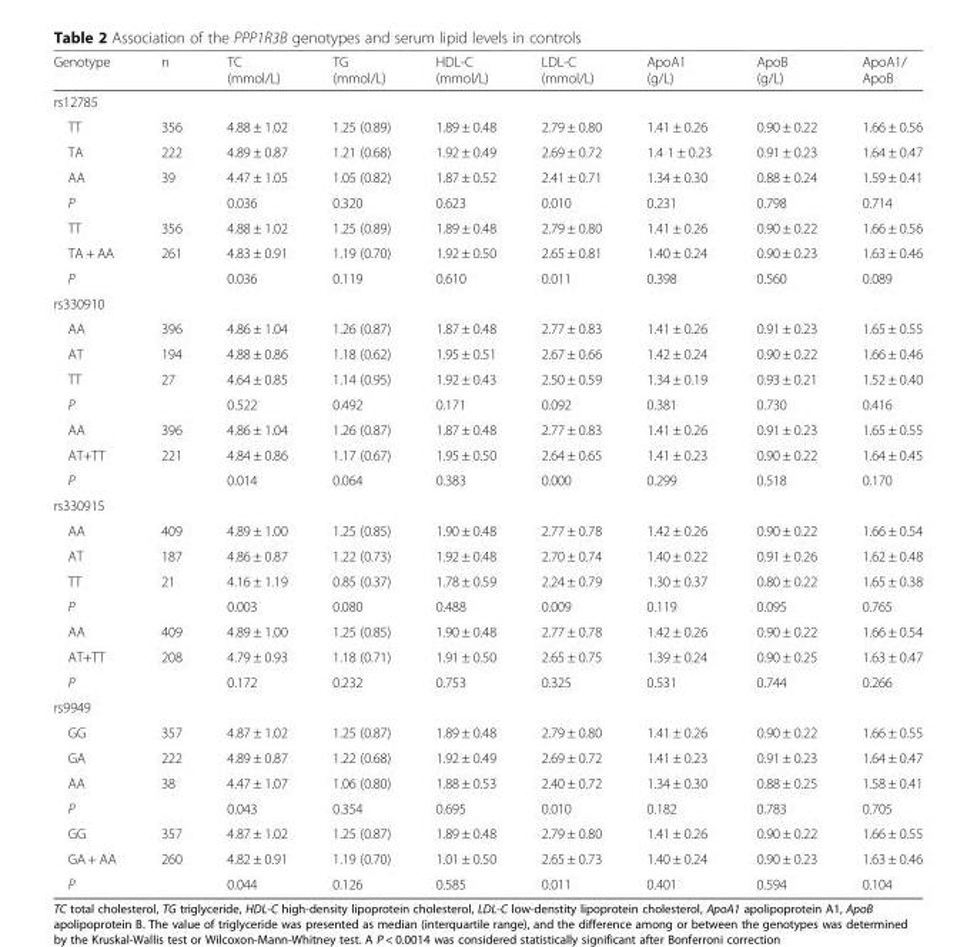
<table><thead><tr><td>Genotype</td><td>n</td><td>TC (mmol/L)</td><td>TG (mmol/L)</td><td>HDL-C (mmol/L)</td><td>LDL-C (mmol/L)</td><td>ApoA1 (g/L)</td><td>ApoB (g/L)</td><td>ApoA1/ ApoB</td></tr></thead><tbody><tr><td colspan="9">rs12785</td></tr><tr><td>TT</td><td>356</td><td>4.88 ± 1.02</td><td>1.25 (0.89)</td><td>1.89 ± 0.48</td><td>2.79 ± 0.80</td><td>1.41 ± 0.26</td><td>0.90 ± 0.22</td><td>1.66 ± 0.56</td></tr><tr><td>TA</td><td>222</td><td>4.89 ± 0.87</td><td>1.21 (0.68)</td><td>1.92 ± 0.49</td><td>2.69 ± 0.72</td><td>1.4 1 ± 0.23</td><td>0.91 ± 0.23</td><td>1.64 ± 0.47</td></tr><tr><td>AA</td><td>39</td><td>4.47 ± 1.05</td><td>1.05 (0.82)</td><td>1.87 ± 0.52</td><td>2.41 ± 0.71</td><td>1.34 ± 0.30</td><td>0.88 ± 0.24</td><td>1.59 ± 0.41</td></tr><tr><td>P</td><td></td><td>0.036</td><td>0.320</td><td>0.623</td><td>0.010</td><td>0.231</td><td>0.798</td><td>0.714</td></tr><tr><td>TT</td><td>356</td><td>4.88 ± 1.02</td><td>1.25 (0.89)</td><td>1.89 ± 0.48</td><td>2.79 ± 0.80</td><td>1.41 ± 0.26</td><td>0.90 ± 0.22</td><td>1.66 ± 0.56</td></tr><tr><td>TA + AA</td><td>261</td><td>4.83 ± 0.91</td><td>1.19 (0.70)</td><td>1.92 ± 0.50</td><td>2.65 ± 0.81</td><td>1.40 ± 0.24</td><td>0.90 ± 0.23</td><td>1.63 ± 0.46</td></tr><tr><td>P</td><td></td><td>0.036</td><td>0.119</td><td>0.610</td><td>0.011</td><td>0.398</td><td>0.560</td><td>0.089</td></tr><tr><td colspan="9">rs330910</td></tr><tr><td>AA</td><td>396</td><td>4.86 ± 1.04</td><td>1.26 (0.87)</td><td>1.87 ± 0.48</td><td>2.77 ± 0.83</td><td>1.41 ± 0.26</td><td>0.91 ± 0.23</td><td>1.65 ± 0.55</td></tr><tr><td>AT</td><td>194</td><td>4.88 ± 0.86</td><td>1.18 (0.62)</td><td>1.95 ± 0.51</td><td>2.67 ± 0.66</td><td>1.42 ± 0.24</td><td>0.90 ± 0.22</td><td>1.66 ± 0.46</td></tr><tr><td>TT</td><td>27</td><td>4.64 ± 0.85</td><td>1.14 (0.95)</td><td>1.92 ± 0.43</td><td>2.50 ± 0.59</td><td>1.34 ± 0.19</td><td>0.93 ± 0.21</td><td>1.52 ± 0.40</td></tr><tr><td>P</td><td></td><td>0.522</td><td>0.492</td><td>0.171</td><td>0.092</td><td>0.381</td><td>0.730</td><td>0.416</td></tr><tr><td>AA</td><td>396</td><td>4.86 ± 1.04</td><td>1.26 (0.87)</td><td>1.87 ± 0.48</td><td>2.77 ± 0.83</td><td>1.41 ± 0.26</td><td>0.91 ± 0.23</td><td>1.65 ± 0.55</td></tr><tr><td>AT+TT</td><td>221</td><td>4.84 ± 0.86</td><td>1.17 (0.67)</td><td>1.95 ± 0.50</td><td>2.64 ± 0.65</td><td>1.41 ± 0.23</td><td>0.90 ± 0.22</td><td>1.64 ± 0.45</td></tr><tr><td>P</td><td></td><td>0.014</td><td>0.064</td><td>0.383</td><td>0.000</td><td>0.299</td><td>0.518</td><td>0.170</td></tr><tr><td colspan="9">rs330915</td></tr><tr><td>AA</td><td>409</td><td>4.89 ± 1.00</td><td>1.25 (0.85)</td><td>1.90 ± 0.48</td><td>2.77 ± 0.78</td><td>1.42 ± 0.26</td><td>0.90 ± 0.22</td><td>1.66 ± 0.54</td></tr><tr><td>AT</td><td>187</td><td>4.86 ± 0.87</td><td>1.22 (0.73)</td><td>1.92 ± 0.48</td><td>2.70 ± 0.74</td><td>1.40 ± 0.22</td><td>0.91 ± 0.26</td><td>1.62 ± 0.48</td></tr><tr><td>TT</td><td>21</td><td>4.16 ± 1.19</td><td>0.85 (0.37)</td><td>1.78 ± 0.59</td><td>2.24 ± 0.79</td><td>1.30 ± 0.37</td><td>0.80 ± 0.22</td><td>1.65 ± 0.38</td></tr><tr><td>P</td><td></td><td>0.003</td><td>0.080</td><td>0.488</td><td>0.009</td><td>0.119</td><td>0.095</td><td>0.765</td></tr><tr><td>AA</td><td>409</td><td>4.89 ± 1.00</td><td>1.25 (0.85)</td><td>1.90 ± 0.48</td><td>2.77 ± 0.78</td><td>1.42 ± 0.26</td><td>0.90 ± 0.22</td><td>1.66 ± 0.54</td></tr><tr><td>AT+TT</td><td>208</td><td>4.79 ± 0.93</td><td>1.18 (0.71)</td><td>1.91 ± 0.50</td><td>2.65 ± 0.75</td><td>1.39 ± 0.24</td><td>0.90 ± 0.25</td><td>1.63 ± 0.47</td></tr><tr><td>P</td><td></td><td>0.172</td><td>0.232</td><td>0.753</td><td>0.325</td><td>0.531</td><td>0.744</td><td>0.266</td></tr><tr><td colspan="9">rs9949</td></tr><tr><td>GG</td><td>357</td><td>4.87 ± 1.02</td><td>1.25 (0.87)</td><td>1.89 ± 0.48</td><td>2.79 ± 0.80</td><td>1.41 ± 0.26</td><td>0.90 ± 0.22</td><td>1.66 ± 0.55</td></tr><tr><td>GA</td><td>222</td><td>4.89 ± 0.87</td><td>1.22 (0.68)</td><td>1.92 ± 0.49</td><td>2.69 ± 0.72</td><td>1.41 ± 0.23</td><td>0.91 ± 0.23</td><td>1.64 ± 0.47</td></tr><tr><td>AA</td><td>38</td><td>4.47 ± 1.07</td><td>1.06 (0.80)</td><td>1.88 ± 0.53</td><td>2.40 ± 0.72</td><td>1.34 ± 0.30</td><td>0.88 ± 0.25</td><td>1.58 ± 0.41</td></tr><tr><td>P</td><td></td><td>0.043</td><td>0.354</td><td>0.695</td><td>0.010</td><td>0.182</td><td>0.783</td><td>0.705</td></tr><tr><td>GG</td><td>357</td><td>4.87 ± 1.02</td><td>1.25 (0.87)</td><td>1.89 ± 0.48</td><td>2.79 ± 0.80</td><td>1.41 ± 0.26</td><td>0.90 ± 0.22</td><td>1.66 ± 0.55</td></tr><tr><td>GA + AA</td><td>260</td><td>4.82 ± 0.91</td><td>1.19 (0.70)</td><td>1.01 ± 0.50</td><td>2.65 ± 0.73</td><td>1.40 ± 0.24</td><td>0.90 ± 0.23</td><td>1.63 ± 0.46</td></tr><tr><td>P</td><td></td><td>0.044</td><td>0.126</td><td>0.585</td><td>0.011</td><td>0.401</td><td>0.594</td><td>0.104</td></tr></tbody></table>